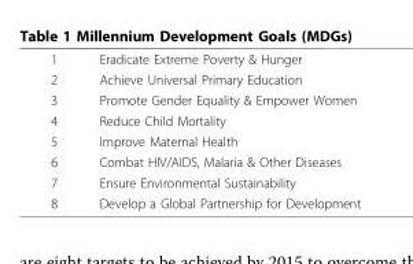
<table><tbody><tr><td>1</td><td>Eradicate Extreme Poverty &amp; Hunger</td></tr><tr><td>2</td><td>Achieve Universal Primary Education</td></tr><tr><td>3</td><td>Promote Gender Equality &amp; Empower Women</td></tr><tr><td>4</td><td>Reduce Child Mortality</td></tr><tr><td>5</td><td>Improve Maternal Health</td></tr><tr><td>6</td><td>Combat HIV/AIDS, Malaria &amp; Other Diseases</td></tr><tr><td>7</td><td>Ensure Environmental Sustainability</td></tr><tr><td>8</td><td>Develop a Global Partnership for Development</td></tr></tbody></table>